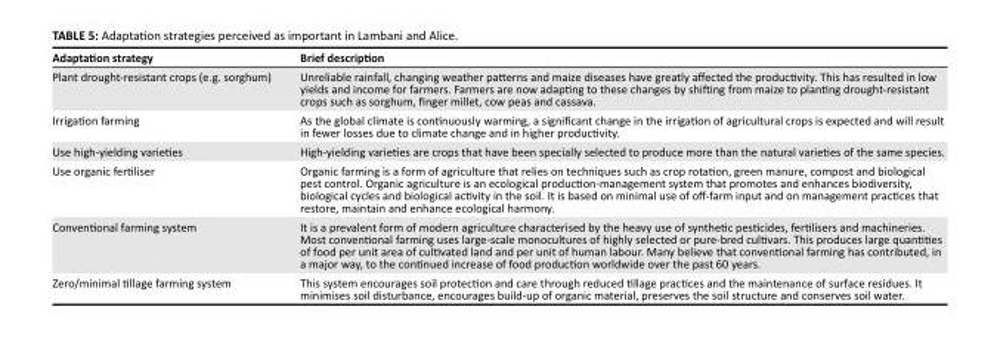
<table><thead><tr><td>Adaptation strategy</td><td>Brief description</td></tr></thead><tbody><tr><td>Plant drought-resistant crops (e.g. sorghum)</td><td>Unreliable rainfall, changing weather patterns and maize diseases have greatly affected the productivity. This has resulted in low yields and income for farmers. Farmers are now adapting to these changes by shifting from maize to planting drought-resistant crops such as sorghum, finger millet, cow peas and cassava.</td></tr><tr><td>Irrigation farming</td><td>As the global climate is continuously warming, a significant change in the irrigation of agricultural crops is expected and will result in fewer losses due to climate change and in higher productivity.</td></tr><tr><td>Use high-yielding varieties</td><td>High-yielding varieties are crops that have been specially selected to produce more than the natural varieties of the same species.</td></tr><tr><td>Use organic fertiliser</td><td>Organic farming is a form of agriculture that relies on techniques such as crop rotation, green manure, compost and biological pest control. Organic agriculture is an ecological production-management system that promotes and enhances biodiversity, biological cycles and biological activity in the soil. It is based on minimal use of off-farm input and on management practices that restore, maintain and enhance ecological harmony.</td></tr><tr><td>Conventional farming system</td><td>It is a prevalent form of modern agriculture characterised by the heavy use of synthetic pesticides, fertilisers and machineries. Most conventional farming uses large-scale monocultures of highly selected or pure-bred cultivars. This produces large quantities of food per unit area of cultivated land and per unit of human labour. Many believe that conventional farming has contributed, in a major way, to the continued increase of food production worldwide over the past 60 years.</td></tr><tr><td>Zero/minimal tillage farming system</td><td>This system encourages soil protection and care through reduced tillage practices and the maintenance of surface residues. It minimises soil disturbance, encourages build-up of organic material, preserves the soil structure and conserves soil water.</td></tr></tbody></table>